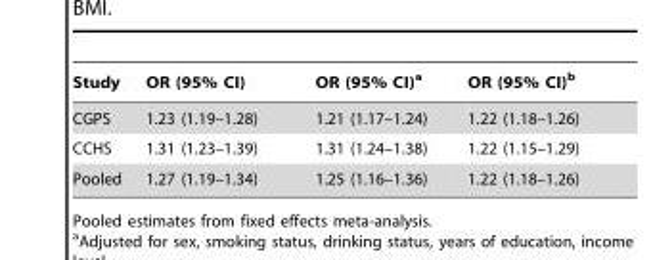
<table><thead><tr><td>Study</td><td>OR (95% CI)</td><td>OR (95% CI)<sup>a</sup></td><td>OR (95% CI)<sup>b</sup></td></tr></thead><tbody><tr><td>CGPS</td><td>1.23 (1.19–1.28)</td><td>1.21 (1.17–1.24)</td><td>1.22 (1.18–1.26)</td></tr><tr><td>CCHS</td><td>1.31 (1.23–1.39)</td><td>1.31 (1.24–1.38)</td><td>1.22 (1.15–1.29)</td></tr><tr><td>Pooled</td><td>1.27 (1.19–1.34)</td><td>1.25 (1.16–1.36)</td><td>1.22 (1.18–1.26)</td></tr></tbody></table>